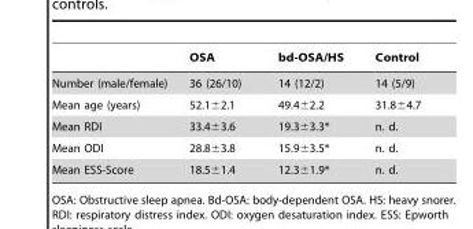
<table><thead><tr><td></td><td>OSA</td><td>bd-OSA/HS</td><td>Control</td></tr></thead><tbody><tr><td>Number (male/female)</td><td>36 (26/10)</td><td>14 (12/2)</td><td>14 (5/9)</td></tr><tr><td>Mean age (years)</td><td>52.1±2.1</td><td>49.4±2.2</td><td>31.8±4.7</td></tr><tr><td>Mean RDI</td><td>33.4±3.6</td><td>19.3±3.3*</td><td>n. d.</td></tr><tr><td>Mean ODI</td><td>28.8±3.8</td><td>15.9±3.5*</td><td>n. d.</td></tr><tr><td>Mean ESS-Score</td><td>18.5±1.4</td><td>12.3±1.9*</td><td>n. d.</td></tr></tbody></table>